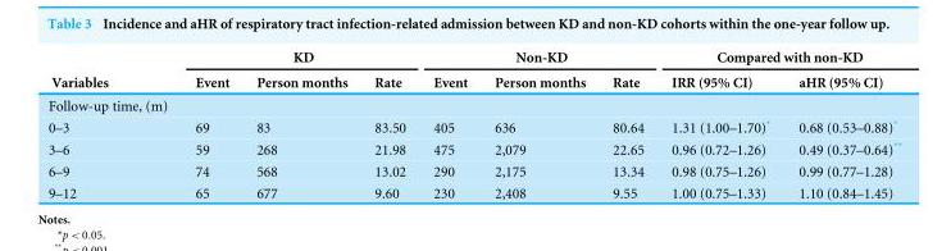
<table><thead><tr><td rowspan="2">Variables</td><td colspan="3">KD</td><td colspan="3">Non-KD</td><td colspan="2">Compared with non-KD</td></tr><tr><td>Event</td><td>Person months</td><td>Rate</td><td>Event</td><td>Person months</td><td>Rate</td><td>IRR (95% CI)</td><td>aHR (95% CI)</td></tr></thead><tbody><tr><td colspan="9">Follow-up time, (m)</td></tr><tr><td>0–3</td><td>69</td><td>83</td><td>83.50</td><td>405</td><td>636</td><td>80.64</td><td>1.31 (1.00–1.70)*</td><td>0.68 (0.53–0.88)*</td></tr><tr><td>3–6</td><td>59</td><td>268</td><td>21.98</td><td>475</td><td>2,079</td><td>22.65</td><td>0.96 (0.72–1.26)</td><td>0.49 (0.37–0.64)**</td></tr><tr><td>6–9</td><td>74</td><td>568</td><td>13.02</td><td>290</td><td>2,175</td><td>13.34</td><td>0.98 (0.75–1.26)</td><td>0.99 (0.77–1.28)</td></tr><tr><td>9–12</td><td>65</td><td>677</td><td>9.60</td><td>230</td><td>2,408</td><td>9.55</td><td>1.00 (0.75–1.33)</td><td>1.10 (0.84–1.45)</td></tr></tbody></table>